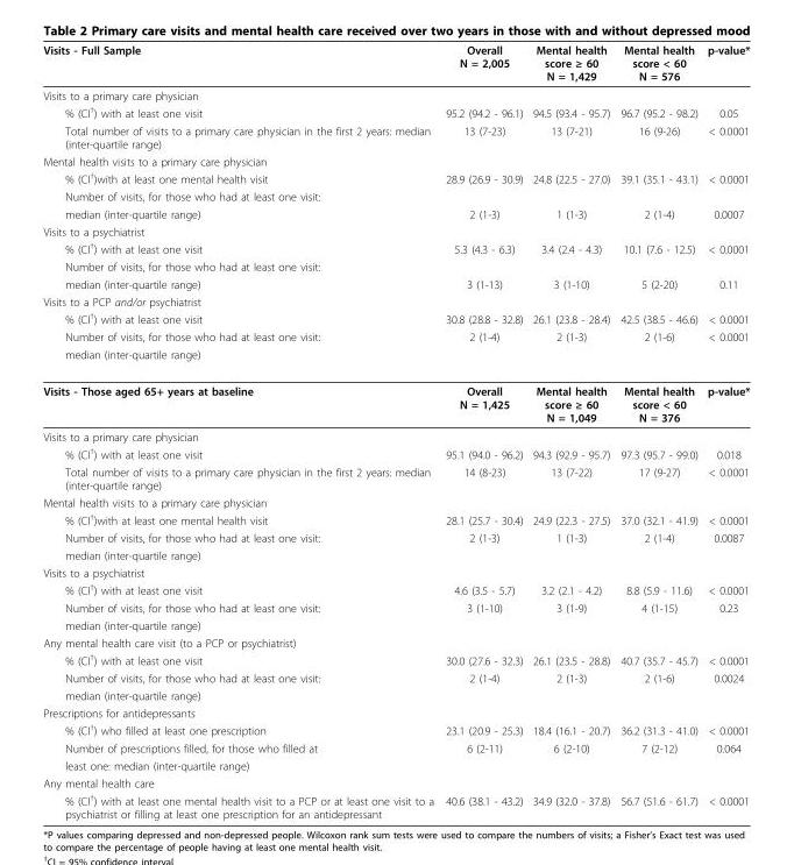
<table><thead><tr><td>Visits - Full Sample</td><td>Overall N = 2,005</td><td>Mental health score ≥ 60 N = 1,429</td><td>Mental health score &lt; 60 N = 576</td><td>p-value*</td></tr></thead><tbody><tr><td colspan="5">Visits to a primary care physician</td></tr><tr><td>% (CI<sup>†</sup>) with at least one visit</td><td>95.2 (94.2 - 96.1)</td><td>94.5 (93.4 - 95.7)</td><td>96.7 (95.2 - 98.2)</td><td>0.05</td></tr><tr><td>Total number of visits to a primary care physician in the first 2 years: median (inter-quartile range)</td><td>13 (7-23)</td><td>13 (7-21)</td><td>16 (9-26)</td><td>&lt; 0.0001</td></tr><tr><td colspan="5">Mental health visits to a primary care physician</td></tr><tr><td>% (CI<sup>†</sup>)with at least one mental health visit</td><td>28.9 (26.9 - 30.9)</td><td>24.8 (22.5 - 27.0)</td><td>39.1 (35.1 - 43.1)</td><td>&lt; 0.0001</td></tr><tr><td colspan="5">Number of visits, for those who had at least one visit:</td></tr><tr><td>median (inter-quartile range)</td><td>2 (1-3)</td><td>1 (1-3)</td><td>2 (1-4)</td><td>0.0007</td></tr><tr><td colspan="5">Visits to a psychiatrist</td></tr><tr><td>% (CI<sup>†</sup>) with at least one visit</td><td>5.3 (4.3 - 6.3)</td><td>3.4 (2.4 - 4.3)</td><td>10.1 (7.6 - 12.5)</td><td>&lt; 0.0001</td></tr><tr><td colspan="5">Number of visits, for those who had at least one visit:</td></tr><tr><td>median (inter-quartile range)</td><td>3 (1-13)</td><td>3 (1-10)</td><td>5 (2-20)</td><td>0.11</td></tr><tr><td colspan="5">Visits to a PCP and/or psychiatrist</td></tr><tr><td>% (CI<sup>†</sup>) with at least one visit</td><td>30.8 (28.8 - 32.8)</td><td>26.1 (23.8 - 28.4)</td><td>42.5 (38.5 - 46.6)</td><td>&lt; 0.0001</td></tr><tr><td>Number of visits, for those who had at least one visit:</td><td>2 (1-4)</td><td>2 (1-3)</td><td>2 (1-6)</td><td>&lt; 0.0001</td></tr><tr><td colspan="5">median (inter-quartile range)</td></tr><tr><td>Visits - Those aged 65+ years at baseline</td><td>Overall N = 1,425</td><td>Mental health score ≥ 60 N = 1,049</td><td>Mental health score &lt; 60 N = 376</td><td>p-value*</td></tr><tr><td colspan="5">Visits to a primary care physician</td></tr><tr><td>% (CI<sup>†</sup>) with at least one visit</td><td>95.1 (94.0 - 96.2)</td><td>94.3 (92.9 - 95.7)</td><td>97.3 (95.7 - 99.0)</td><td>0.018</td></tr><tr><td>Total number of visits to a primary care physician in the first 2 years: median (inter-quartile range)</td><td>14 (8-23)</td><td>13 (7-22)</td><td>17 (9-27)</td><td>&lt; 0.0001</td></tr><tr><td colspan="5">Mental health visits to a primary care physician</td></tr><tr><td>% (CI<sup>†</sup>)with at least one mental health visit</td><td>28.1 (25.7 - 30.4)</td><td>24.9 (22.3 - 27.5)</td><td>37.0 (32.1 - 41.9)</td><td>&lt; 0.0001</td></tr><tr><td>Number of visits, for those who had at least one visit:</td><td>2 (1-3)</td><td>1 (1-3)</td><td>2 (1-4)</td><td>0.0087</td></tr><tr><td colspan="5">median (inter-quartile range)</td></tr><tr><td colspan="5">Visits to a psychiatrist</td></tr><tr><td>% (CI<sup>†</sup>) with at least one visit</td><td>4.6 (3.5 - 5.7)</td><td>3.2 (2.1 - 4.2)</td><td>8.8 (5.9 - 11.6)</td><td>&lt; 0.0001</td></tr><tr><td>Number of visits, for those who had at least one visit:</td><td>3 (1-10)</td><td>3 (1-9)</td><td>4 (1-15)</td><td>0.23</td></tr><tr><td colspan="5">median (inter-quartile range)</td></tr><tr><td colspan="5">Any mental health care visit (to a PCP or psychiatrist)</td></tr><tr><td>% (CI<sup>†</sup>) with at least one visit</td><td>30.0 (27.6 - 32.3)</td><td>26.1 (23.5 - 28.8)</td><td>40.7 (35.7 - 45.7)</td><td>&lt; 0.0001</td></tr><tr><td>Number of visits, for those who had at least one visit:</td><td>2 (1-4)</td><td>2 (1-3)</td><td>2 (1-6)</td><td>0.0024</td></tr><tr><td colspan="5">median (inter-quartile range)</td></tr><tr><td colspan="5">Prescriptions for antidepressants</td></tr><tr><td>% (CI<sup>†</sup>) who filled at least one prescription</td><td>23.1 (20.9 - 25.3)</td><td>18.4 (16.1 - 20.7)</td><td>36.2 (31.3 - 41.0)</td><td>&lt; 0.0001</td></tr><tr><td>Number of prescriptions filled, for those who filled at</td><td>6 (2-11)</td><td>6 (2-10)</td><td>7 (2-12)</td><td>0.064</td></tr><tr><td colspan="5">least one: median (inter-quartile range)</td></tr><tr><td colspan="5">Any mental health care</td></tr><tr><td>% (CI<sup>†</sup>) with at least one mental health visit to a PCP or at least one visit to a psychiatrist or filling at least one prescription for an antidepressant</td><td>40.6 (38.1 - 43.2)</td><td>34.9 (32.0 - 37.8)</td><td>56.7 (51.6 - 61.7)</td><td>&lt; 0.0001</td></tr></tbody></table>